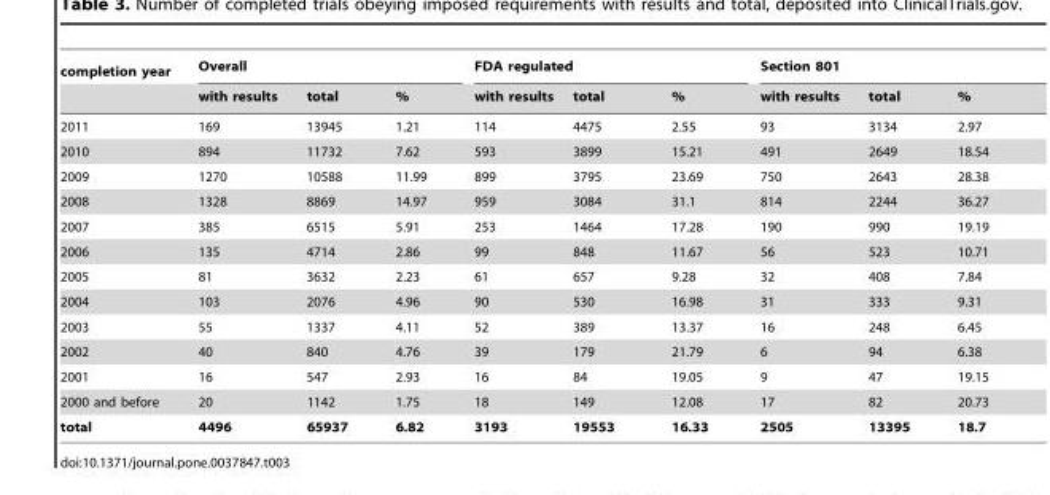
<table><thead><tr><td rowspan="2">completion year</td><td colspan="3">Overall</td><td colspan="3">FDA regulated</td><td colspan="3">Section 801</td></tr><tr><td>with results</td><td>total</td><td>%</td><td>with results</td><td>total</td><td>%</td><td>with results</td><td>total</td><td>%</td></tr></thead><tbody><tr><td>2011</td><td>169</td><td>13945</td><td>1.21</td><td>114</td><td>4475</td><td>2.55</td><td>93</td><td>3134</td><td>2.97</td></tr><tr><td>2010</td><td>894</td><td>11732</td><td>7.62</td><td>593</td><td>3899</td><td>15.21</td><td>491</td><td>2649</td><td>18.54</td></tr><tr><td>2009</td><td>1270</td><td>10588</td><td>11.99</td><td>899</td><td>3795</td><td>23.69</td><td>750</td><td>2643</td><td>28.38</td></tr><tr><td>2008</td><td>1328</td><td>8869</td><td>14.97</td><td>959</td><td>3084</td><td>31.1</td><td>814</td><td>2244</td><td>36.27</td></tr><tr><td>2007</td><td>385</td><td>6515</td><td>5.91</td><td>253</td><td>1464</td><td>17.28</td><td>190</td><td>990</td><td>19.19</td></tr><tr><td>2006</td><td>135</td><td>4714</td><td>2.86</td><td>99</td><td>848</td><td>11.67</td><td>56</td><td>523</td><td>10.71</td></tr><tr><td>2005</td><td>81</td><td>3632</td><td>2.23</td><td>61</td><td>657</td><td>9.28</td><td>32</td><td>408</td><td>7.84</td></tr><tr><td>2004</td><td>103</td><td>2076</td><td>4.96</td><td>90</td><td>530</td><td>16.98</td><td>31</td><td>333</td><td>9.31</td></tr><tr><td>2003</td><td>55</td><td>1337</td><td>4.11</td><td>52</td><td>389</td><td>13.37</td><td>16</td><td>248</td><td>6.45</td></tr><tr><td>2002</td><td>40</td><td>840</td><td>4.76</td><td>39</td><td>179</td><td>21.79</td><td>6</td><td>94</td><td>6.38</td></tr><tr><td>2001</td><td>16</td><td>547</td><td>2.93</td><td>16</td><td>84</td><td>19.05</td><td>9</td><td>47</td><td>19.15</td></tr><tr><td>2000 and before</td><td>20</td><td>1142</td><td>1.75</td><td>18</td><td>149</td><td>12.08</td><td>17</td><td>82</td><td>20.73</td></tr><tr><td>total</td><td>4496</td><td>65937</td><td>6.82</td><td>3193</td><td>19553</td><td>16.33</td><td>2505</td><td>13395</td><td>18.7</td></tr></tbody></table>